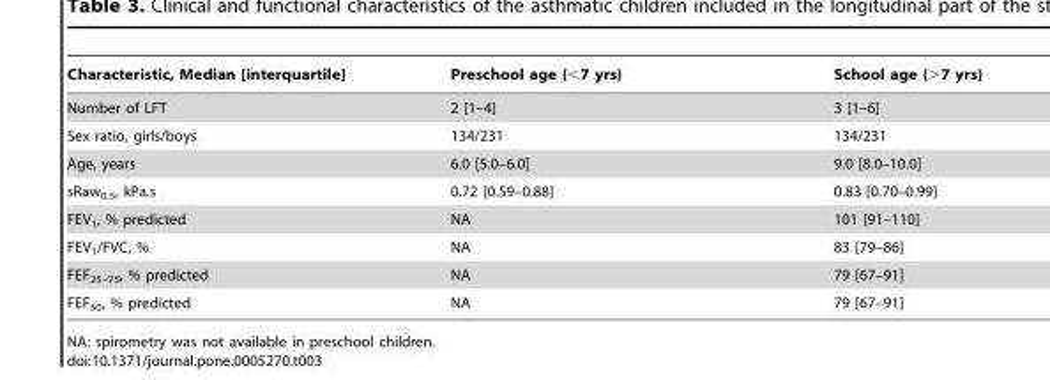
<table><thead><tr><td>Characteristic, Median [interquartile]</td><td>Preschool age (&lt;7 yrs)</td><td>School age (&gt;7 yrs)</td></tr></thead><tbody><tr><td>Number of LFT</td><td>2 [1–4]</td><td>3 [1–6]</td></tr><tr><td>Sex ratio, girls/boys</td><td>134/231</td><td>134/231</td></tr><tr><td>Age, years</td><td>6.0 [5.0–6.0]</td><td>9.0 [8.0–10.0]</td></tr><tr><td>sRaw<sub>0.5</sub>, kPa.s</td><td>0.72 [0.59–0.88]</td><td>0.83 [0.70–0.99]</td></tr><tr><td>FEV<sub>1</sub>, % predicted</td><td>NA</td><td>101 [91–110]</td></tr><tr><td>FEV<sub>1</sub>/FVC, %</td><td>NA</td><td>83 [79–86]</td></tr><tr><td>FEF<sub>25–75</sub>, % predicted</td><td>NA</td><td>79 [67–91]</td></tr><tr><td>FEF<sub>50</sub>, % predicted</td><td>NA</td><td>79 [67–91]</td></tr></tbody></table>